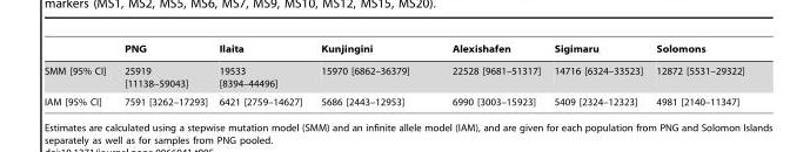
<table><thead><tr><td></td><td>PNG</td><td>Ilaita</td><td>Kunjingini</td><td>Alexishafen</td><td>Sigimaru</td><td>Solomons</td></tr></thead><tbody><tr><td>SMM [95% CI]</td><td>25919 [11138–59043]</td><td>19533 [8394–44496]</td><td>15970 [6862–36379]</td><td>22528 [9681–51317]</td><td>14716 [6324–33523]</td><td>12872 [5531–29322]</td></tr><tr><td>IAM [95% CI]</td><td>7591 [3262–17293]</td><td>6421 [2759–14627]</td><td>5686 [2443–12953]</td><td>6990 [3003–15923]</td><td>5409 [2324–12323]</td><td>4981 [2140–11347]</td></tr></tbody></table>